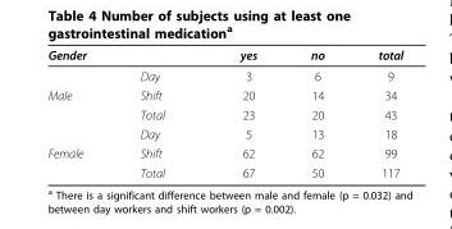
<table><thead><tr><td>Gender</td><td></td><td>yes</td><td>no</td><td>total</td></tr></thead><tbody><tr><td></td><td>Day</td><td>3</td><td>6</td><td>9</td></tr><tr><td rowspan="3">Male</td><td>Shift</td><td>20</td><td>14</td><td>34</td></tr><tr><td>Total</td><td>23</td><td>20</td><td>43</td></tr><tr><td>Day</td><td>5</td><td>13</td><td>18</td></tr><tr><td rowspan="2">Female</td><td>Shift</td><td>62</td><td>62</td><td>99</td></tr><tr><td>Total</td><td>67</td><td>50</td><td>117</td></tr></tbody></table>